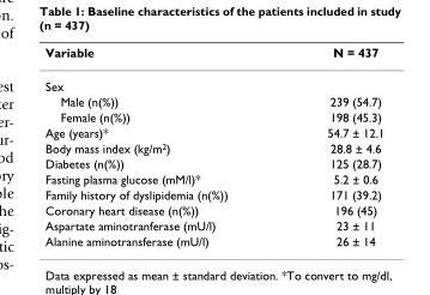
<table><thead><tr><td>Variable</td><td>N = 437</td></tr></thead><tbody><tr><td colspan="2">Sex</td></tr><tr><td>Male (n(%))</td><td>239 (54.7)</td></tr><tr><td>Female (n(%))</td><td>198 (45.3)</td></tr><tr><td>Age (years)*</td><td>54.7 ± 12.1</td></tr><tr><td>Body mass index (kg/m<sup>2</sup>)</td><td>28.8 ± 4.6</td></tr><tr><td>Diabetes (n(%))</td><td>125 (28.7)</td></tr><tr><td>Fasting plasma glucose (mM/l)*</td><td>5.2 ± 0.6</td></tr><tr><td>Family history of dyslipidemia (n(%))</td><td>171 (39.2)</td></tr><tr><td>Coronary heart disease (n(%))</td><td>196 (45)</td></tr><tr><td>Aspartate aminotranferase (mU/l)</td><td>23 ± 11</td></tr><tr><td>Alanine aminotransferase (mU/l)</td><td>26 ± 14</td></tr></tbody></table>